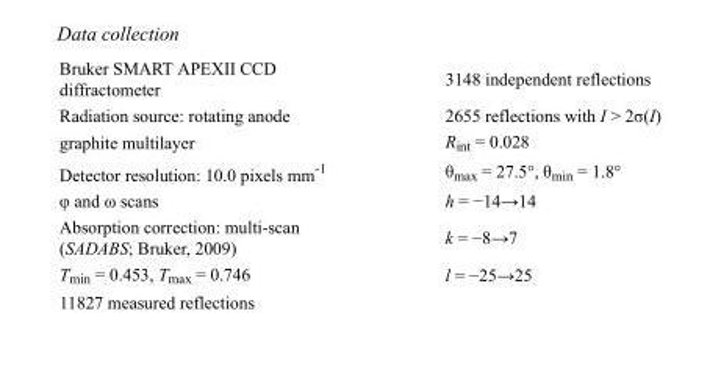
<table><tbody><tr><td>Bruker SMART APEXII CCD diffractometer</td><td>3148 independent reflections</td></tr><tr><td>Radiation source: rotating anode</td><td>2655 reflections with I &gt; 2σ(I)</td></tr><tr><td>graphite multilayer</td><td>R<sub>int</sub> = 0.028</td></tr><tr><td>Detector resolution: 10.0 pixels mm<sup>-1</sup></td><td>θ<sub>max</sub> = 27.5°, θ<sub>min</sub> = 1.8°</td></tr><tr><td>φ and ω scans</td><td>h = −14→14</td></tr><tr><td>Absorption correction: multi-scan (SADABS; Bruker, 2009)</td><td>k = −8→7</td></tr><tr><td>T<sub>min</sub> = 0.453, T<sub>max</sub> = 0.746</td><td>l = −25→25</td></tr><tr><td>11827 measured reflections</td><td></td></tr></tbody></table>